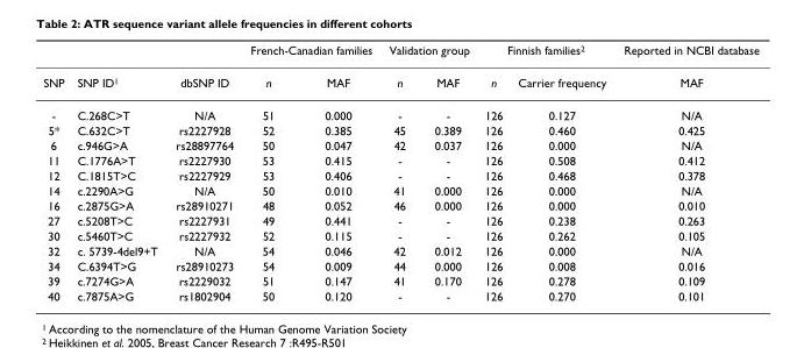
<table><thead><tr><td rowspan="2">SNP</td><td rowspan="2">SNP ID1</td><td rowspan="2">dbSNP ID</td><td colspan="2">French-Canadian families</td><td colspan="2">Validation group</td><td colspan="2">Finnish families2</td><td rowspan="2">Reported in NCBI database MAF</td></tr><tr><td>n</td><td>MAF</td><td>n</td><td>MAF</td><td>n</td><td>Carrier frequency</td></tr></thead><tbody><tr><td>-</td><td>C.268C&gt;T</td><td>N/A</td><td>51</td><td>0.000</td><td>-</td><td>-</td><td>126</td><td>0.127</td><td>N/A</td></tr><tr><td>5*</td><td>C.632C&gt;T</td><td>rs2227928</td><td>52</td><td>0.385</td><td>45</td><td>0.389</td><td>126</td><td>0.460</td><td>0.425</td></tr><tr><td>6</td><td>c.946G&gt;A</td><td>rs28897764</td><td>50</td><td>0.047</td><td>42</td><td>0.037</td><td>126</td><td>0.000</td><td>N/A</td></tr><tr><td>11</td><td>C.1776A&gt;T</td><td>rs2227930</td><td>53</td><td>0.415</td><td>-</td><td>-</td><td>126</td><td>0.508</td><td>0.412</td></tr><tr><td>12</td><td>C.1815T&gt;C</td><td>rs2227929</td><td>53</td><td>0.406</td><td>-</td><td>-</td><td>126</td><td>0.468</td><td>0.378</td></tr><tr><td>14</td><td>c.2290A&gt;G</td><td>N/A</td><td>50</td><td>0.010</td><td>41</td><td>0.000</td><td>126</td><td>0.000</td><td>N/A</td></tr><tr><td>16</td><td>c.2875G&gt;A</td><td>rs28910271</td><td>48</td><td>0.052</td><td>46</td><td>0.000</td><td>126</td><td>0.000</td><td>0.010</td></tr><tr><td>27</td><td>c.5208T&gt;C</td><td>rs2227931</td><td>49</td><td>0.441</td><td>-</td><td>-</td><td>126</td><td>0.238</td><td>0.263</td></tr><tr><td>30</td><td>c.5460T&gt;C</td><td>rs2227932</td><td>52</td><td>0.115</td><td>-</td><td>-</td><td>126</td><td>0.262</td><td>0.105</td></tr><tr><td>32</td><td>c. 5739-4del9+T</td><td>N/A</td><td>54</td><td>0.046</td><td>42</td><td>0.012</td><td>126</td><td>0.000</td><td>N/A</td></tr><tr><td>34</td><td>C.6394T&gt;G</td><td>rs28910273</td><td>54</td><td>0.009</td><td>44</td><td>0.000</td><td>126</td><td>0.008</td><td>0.016</td></tr><tr><td>39</td><td>c.7274G&gt;A</td><td>rs2229032</td><td>51</td><td>0.147</td><td>41</td><td>0.170</td><td>126</td><td>0.278</td><td>0.109</td></tr><tr><td>40</td><td>c.7875A&gt;G</td><td>rs1802904</td><td>50</td><td>0.120</td><td>-</td><td>-</td><td>126</td><td>0.270</td><td>0.101</td></tr></tbody></table>